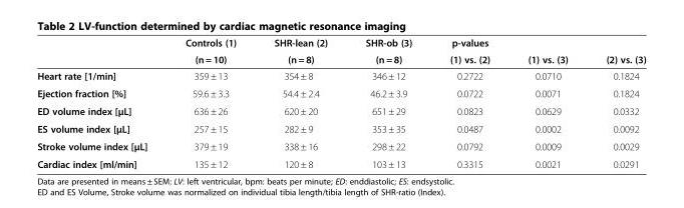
<table><thead><tr><td rowspan="2"></td><td rowspan="2">Controls (1) (n = 10)</td><td rowspan="2">SHR-lean (2) (n = 8)</td><td rowspan="2">SHR-ob (3) (n = 8)</td><td rowspan="2">p-values (1) vs. (2)</td><td rowspan="2">(1) vs. (3)</td><td rowspan="2">(2) vs. (3)</td></tr><tr></tr></thead><tbody><tr><td>Heart rate [1/min]</td><td>359 ± 13</td><td>354 ± 8</td><td>346 ± 12</td><td>0.2722</td><td>0.0710</td><td>0.1824</td></tr><tr><td>Ejection fraction [%]</td><td>59.6 ± 3.3</td><td>54.4 ± 2.4</td><td>46.2 ± 3.9</td><td>0.0722</td><td>0.0071</td><td>0.1824</td></tr><tr><td>ED volume index [μL]</td><td>636 ± 26</td><td>620 ± 20</td><td>651 ± 29</td><td>0.0823</td><td>0.0629</td><td>0.0332</td></tr><tr><td>ES volume index [μL]</td><td>257 ± 15</td><td>282 ± 9</td><td>353 ± 35</td><td>0.0487</td><td>0.0002</td><td>0.0092</td></tr><tr><td>Stroke volume index [μL]</td><td>379 ± 19</td><td>338 ± 16</td><td>298 ± 22</td><td>0.0792</td><td>0.0009</td><td>0.0029</td></tr><tr><td>Cardiac index [ml/min]</td><td>135 ± 12</td><td>120 ± 8</td><td>103 ± 13</td><td>0.3315</td><td>0.0021</td><td>0.0291</td></tr></tbody></table>